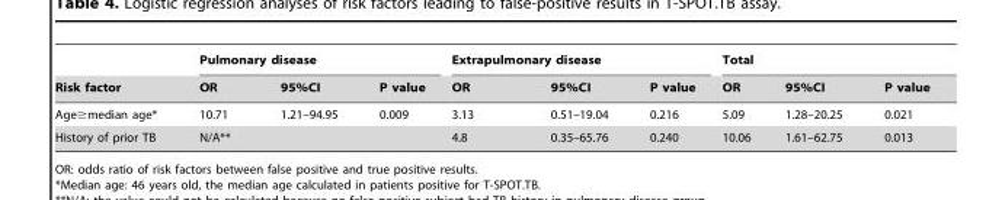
<table><thead><tr><td rowspan="2">Risk factor</td><td colspan="3">Pulmonary disease</td><td colspan="3">Extrapulmonary disease</td><td colspan="3">Total</td></tr><tr><td>OR</td><td>95%CI</td><td>P value</td><td>OR</td><td>95%CI</td><td>P value</td><td>OR</td><td>95%CI</td><td>P value</td></tr></thead><tbody><tr><td>Age≥median age*</td><td>10.71</td><td>1.21–94.95</td><td>0.009</td><td>3.13</td><td>0.51–19.04</td><td>0.216</td><td>5.09</td><td>1.28–20.25</td><td>0.021</td></tr><tr><td>History of prior TB</td><td colspan="3">N/A**</td><td>4.8</td><td>0.35–65.76</td><td>0.240</td><td>10.06</td><td>1.61–62.75</td><td>0.013</td></tr></tbody></table>